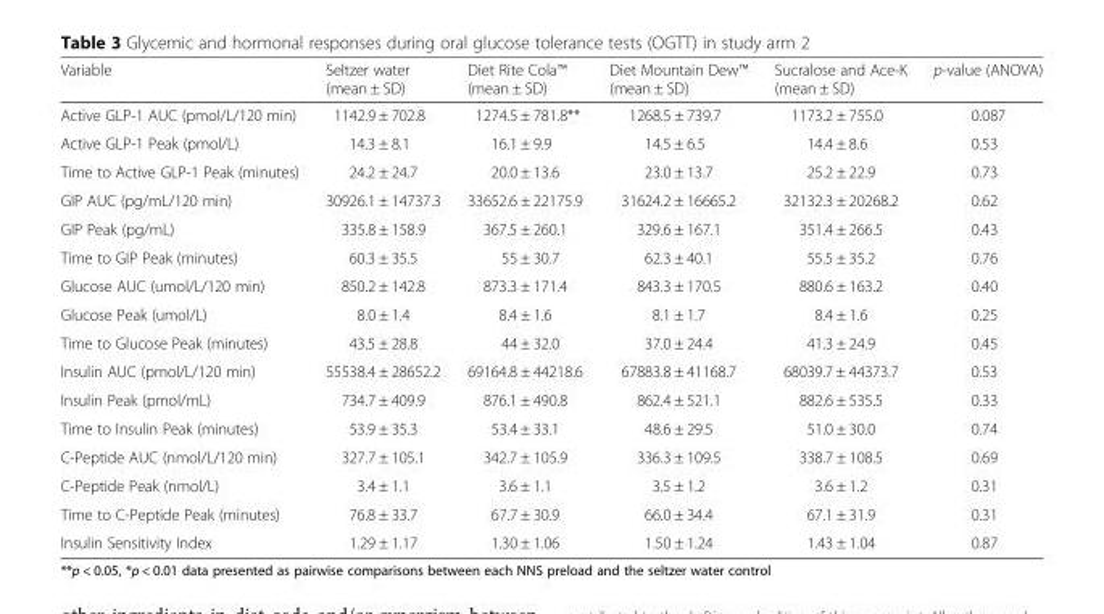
<table><thead><tr><td>Variable</td><td>Seltzer water (mean ± SD)</td><td>Diet Rite Cola™ (mean ± SD)</td><td>Diet Mountain Dew™ (mean ± SD)</td><td>Sucralose and Ace-K (mean ± SD)</td><td>p-value (ANOVA)</td></tr></thead><tbody><tr><td>Active GLP-1 AUC (pmol/L/120 min)</td><td>1142.9 ± 702.8</td><td>1274.5 ± 781.8**</td><td>1268.5 ± 739.7</td><td>1173.2 ± 755.0</td><td>0.087</td></tr><tr><td>Active GLP-1 Peak (pmol/L)</td><td>14.3 ± 8.1</td><td>16.1 ± 9.9</td><td>14.5 ± 6.5</td><td>14.4 ± 8.6</td><td>0.53</td></tr><tr><td>Time to Active GLP-1 Peak (minutes)</td><td>24.2 ± 24.7</td><td>20.0 ± 13.6</td><td>23.0 ± 13.7</td><td>25.2 ± 22.9</td><td>0.73</td></tr><tr><td>GIP AUC (pg/mL/120 min)</td><td>30926.1 ± 14737.3</td><td>33652.6 ± 22175.9</td><td>31624.2 ± 16665.2</td><td>32132.3 ± 20268.2</td><td>0.62</td></tr><tr><td>GIP Peak (pg/mL)</td><td>335.8 ± 158.9</td><td>367.5 ± 260.1</td><td>329.6 ± 167.1</td><td>351.4 ± 266.5</td><td>0.43</td></tr><tr><td>Time to GIP Peak (minutes)</td><td>60.3 ± 35.5</td><td>55 ± 30.7</td><td>62.3 ± 40.1</td><td>55.5 ± 35.2</td><td>0.76</td></tr><tr><td>Glucose AUC (umol/L/120 min)</td><td>850.2 ± 142.8</td><td>873.3 ± 171.4</td><td>843.3 ± 170.5</td><td>880.6 ± 163.2</td><td>0.40</td></tr><tr><td>Glucose Peak (umol/L)</td><td>8.0 ± 1.4</td><td>8.4 ± 1.6</td><td>8.1 ± 1.7</td><td>8.4 ± 1.6</td><td>0.25</td></tr><tr><td>Time to Glucose Peak (minutes)</td><td>43.5 ± 28.8</td><td>44 ± 32.0</td><td>37.0 ± 24.4</td><td>41.3 ± 24.9</td><td>0.45</td></tr><tr><td>Insulin AUC (pmol/L/120 min)</td><td>55538.4 ± 28652.2</td><td>69164.8 ± 44218.6</td><td>67883.8 ± 41168.7</td><td>68039.7 ± 44373.7</td><td>0.53</td></tr><tr><td>Insulin Peak (pmol/mL)</td><td>734.7 ± 409.9</td><td>876.1 ± 490.8</td><td>862.4 ± 521.1</td><td>882.6 ± 535.5</td><td>0.33</td></tr><tr><td>Time to Insulin Peak (minutes)</td><td>53.9 ± 35.3</td><td>53.4 ± 33.1</td><td>48.6 ± 29.5</td><td>51.0 ± 30.0</td><td>0.74</td></tr><tr><td>C-Peptide AUC (nmol/L/120 min)</td><td>327.7 ± 105.1</td><td>342.7 ± 105.9</td><td>336.3 ± 109.5</td><td>338.7 ± 108.5</td><td>0.69</td></tr><tr><td>C-Peptide Peak (nmol/L)</td><td>3.4 ± 1.1</td><td>3.6 ± 1.1</td><td>3.5 ± 1.2</td><td>3.6 ± 1.2</td><td>0.31</td></tr><tr><td>Time to C-Peptide Peak (minutes)</td><td>76.8 ± 33.7</td><td>67.7 ± 30.9</td><td>66.0 ± 34.4</td><td>67.1 ± 31.9</td><td>0.31</td></tr><tr><td>Insulin Sensitivity Index</td><td>1.29 ± 1.17</td><td>1.30 ± 1.06</td><td>1.50 ± 1.24</td><td>1.43 ± 1.04</td><td>0.87</td></tr></tbody></table>